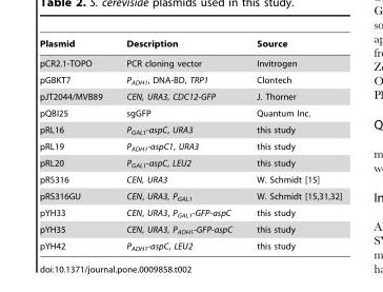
<table><thead><tr><td>Plasmid</td><td>Description</td><td>Source</td></tr></thead><tbody><tr><td>pCR2.1-TOPO</td><td>PCR cloning vector</td><td>Invitrogen</td></tr><tr><td>pGBKT7</td><td>P<sub>ADH1</sub>, DNA-BD, TRP1</td><td>Clontech</td></tr><tr><td>pJT2044/MVB89</td><td>CEN, URA3, CDC12-GFP</td><td>J. Thorner</td></tr><tr><td>pQBI25</td><td>sgGFP</td><td>Quantum Inc.</td></tr><tr><td>pRL16</td><td>P<sub>GAL1</sub>-aspC, URA3</td><td>this study</td></tr><tr><td>pRL19</td><td>P<sub>ADH1</sub>-aspC1, URA3</td><td>this study</td></tr><tr><td>pRL20</td><td>P<sub>GAL1</sub>-aspC, LEU2</td><td>this study</td></tr><tr><td>pRS316</td><td>CEN, URA3</td><td>W. Schmidt [15]</td></tr><tr><td>pRS316GU</td><td>CEN, URA3, P<sub>GAL1</sub></td><td>W. Schmidt [15,31,32]</td></tr><tr><td>pYH33</td><td>CEN, URA3, P<sub>GAL1</sub>-GFP-aspC</td><td>this study</td></tr><tr><td>pYH35</td><td>CEN, URA3, P<sub>ADH1</sub>-GFP-aspC</td><td>this study</td></tr><tr><td>pYH42</td><td>P<sub>ADH1</sub>-aspC, LEU2</td><td>this study</td></tr></tbody></table>